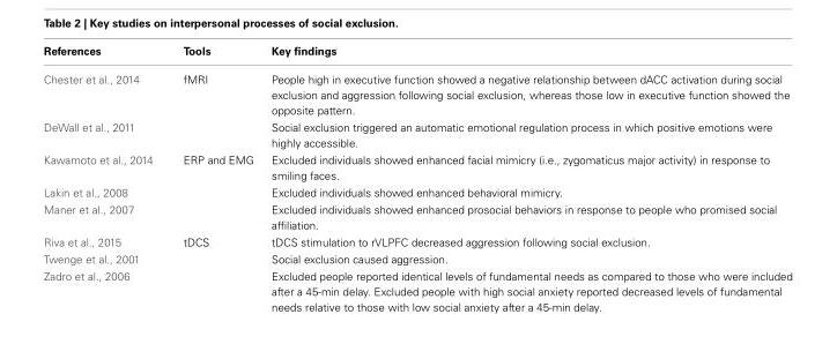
<table><thead><tr><td>References</td><td>Tools</td><td>Key findings</td></tr></thead><tbody><tr><td>Chester et al., 2014</td><td>fMRI</td><td>People high in executive function showed a negative relationship between dACC activation during social exclusion and aggression following social exclusion, whereas those low in executive function showed the opposite pattern.</td></tr><tr><td>DeWall et al., 2011</td><td></td><td>Social exclusion triggered an automatic emotional regulation process in which positive emotions were highly accessible.</td></tr><tr><td>Kawamoto et al., 2014</td><td>ERP and EMG</td><td>Excluded individuals showed enhanced facial mimicry (i.e., zygomaticus major activity) in response to smiling faces.</td></tr><tr><td>Lakin et al., 2008</td><td></td><td>Excluded individuals showed enhanced behavioral mimicry.</td></tr><tr><td>Maner et al., 2007</td><td></td><td>Excluded individuals showed enhanced prosocial behaviors in response to people who promised social affiliation.</td></tr><tr><td>Riva et al., 2015</td><td>tDCS</td><td>tDCS stimulation to rVLPFC decreased aggression following social exclusion.</td></tr><tr><td>Twenge et al., 2001</td><td></td><td>Social exclusion caused aggression.</td></tr><tr><td>Zadro et al., 2006</td><td></td><td>Excluded people reported identical levels of fundamental needs as compared to those who were included after a 45-min delay. Excluded people with high social anxiety reported decreased levels of fundamental needs relative to those with low social anxiety after a 45-min delay.</td></tr></tbody></table>